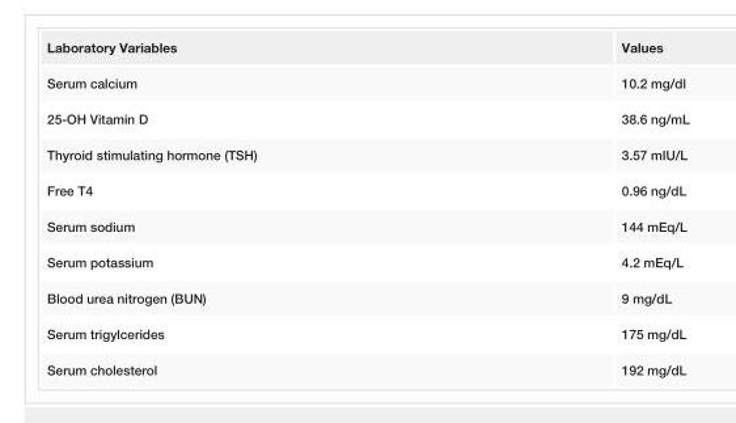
<table><tbody><tr><td>Laboratory Variables</td><td>Values</td></tr><tr><td>Serum calcium</td><td>10.2 mg/dl</td></tr><tr><td>25-OH Vitamin D</td><td>38.6 ng/mL</td></tr><tr><td>Thyroid stimulating hormone (TSH)</td><td>3.57 mIU/L</td></tr><tr><td>Free T4</td><td>0.96 ng/dL</td></tr><tr><td>Serum sodium</td><td>144 mEq/L</td></tr><tr><td>Serum potassium</td><td>4.2 mEq/L</td></tr><tr><td>Blood urea nitrogen (BUN)</td><td>9 mg/dL</td></tr><tr><td>Serum trigylcerides</td><td>175 mg/dL</td></tr><tr><td>Serum cholesterol</td><td>192 mg/dL</td></tr></tbody></table>